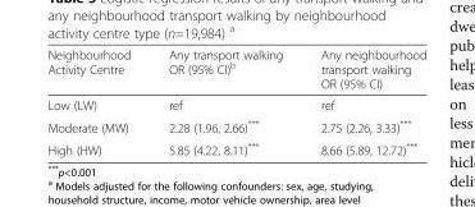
<table><thead><tr><td>Neighbourhood Activity Centre</td><td>Any transport walking OR (95% CI)<sup>b</sup></td><td>Any neighbourhood transport walking OR (95% CI)</td></tr></thead><tbody><tr><td>Low (LW)</td><td>ref</td><td>ref</td></tr><tr><td>Moderate (MW)</td><td>2.28 (1.96, 2.66)***</td><td>2.75 (2.26, 3.33)***</td></tr><tr><td>High (HW)</td><td>5.85 (4.22, 8.11)***</td><td>8.66 (5.89, 12.72)***</td></tr></tbody></table>